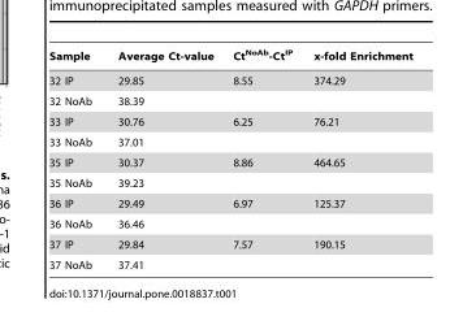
<table><thead><tr><td>Sample</td><td>Average Ct-value</td><td>Ct<sup>NoAb</sup>-Ct<sup>IP</sup></td><td>x-fold Enrichment</td></tr></thead><tbody><tr><td>32 IP</td><td>29.85</td><td>8.55</td><td>374.29</td></tr><tr><td>32 NoAb</td><td>38.39</td><td></td><td></td></tr><tr><td>33 IP</td><td>30.76</td><td>6.25</td><td>76.21</td></tr><tr><td>33 NoAb</td><td>37.01</td><td></td><td></td></tr><tr><td>35 IP</td><td>30.37</td><td>8.86</td><td>464.65</td></tr><tr><td>35 NoAb</td><td>39.23</td><td></td><td></td></tr><tr><td>36 IP</td><td>29.49</td><td>6.97</td><td>125.37</td></tr><tr><td>36 NoAb</td><td>36.46</td><td></td><td></td></tr><tr><td>37 IP</td><td>29.84</td><td>7.57</td><td>190.15</td></tr><tr><td>37 NoAb</td><td>37.41</td><td></td><td></td></tr></tbody></table>